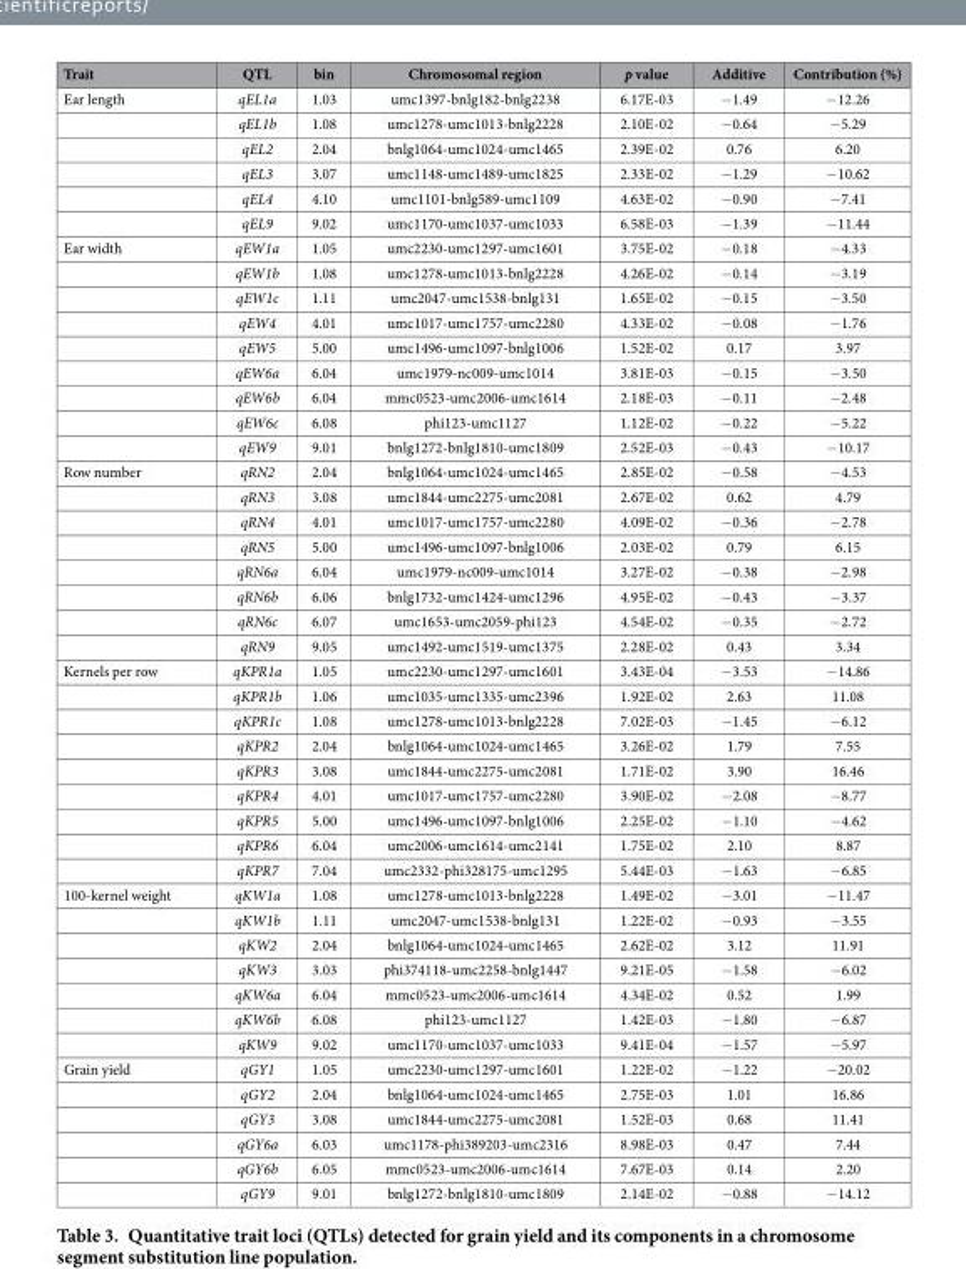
<table><thead><tr><td>Trait</td><td>QTL</td><td>bin</td><td>Chromosomal region</td><td>p value</td><td>Additive</td><td>Contribution (%)</td></tr></thead><tbody><tr><td rowspan="6">Ear length</td><td>qEL1a</td><td>1.03</td><td>umc1397-bnlg182-bnlg2238</td><td>6.17E-03</td><td>− 1.49</td><td>− 12.26</td></tr><tr><td>qEL1b</td><td>1.08</td><td>umc1278-umc1013-bnlg2228</td><td>2.10E-02</td><td>− 0.64</td><td>− 5.29</td></tr><tr><td>qEL2</td><td>2.04</td><td>bnlg1064-umc1024-umc1465</td><td>2.39E-02</td><td>0.76</td><td>6.20</td></tr><tr><td>qEL3</td><td>3.07</td><td>umc1148-umc1489-umc1825</td><td>2.33E-02</td><td>− 1.29</td><td>− 10.62</td></tr><tr><td>qEL4</td><td>4.10</td><td>umc1101-bnlg589-umc1109</td><td>4.63E-02</td><td>− 0.90</td><td>− 7.41</td></tr><tr><td>qEL9</td><td>9.02</td><td>umc1170-umc1037-umc1033</td><td>6.58E-03</td><td>− 1.39</td><td>− 11.44</td></tr><tr><td rowspan="9">Ear width</td><td>qEW1a</td><td>1.05</td><td>umc2230-umc1297-umc1601</td><td>3.75E-02</td><td>− 0.18</td><td>− 4.33</td></tr><tr><td>qEW1b</td><td>1.08</td><td>umc1278-umc1013-bnlg2228</td><td>4.26E-02</td><td>− 0.14</td><td>− 3.19</td></tr><tr><td>qEW1c</td><td>1.11</td><td>umc2047-umc1538-bnlg131</td><td>1.65E-02</td><td>− 0.15</td><td>− 3.50</td></tr><tr><td>qEW4</td><td>4.01</td><td>umc1017-umc1757-umc2280</td><td>4.33E-02</td><td>− 0.08</td><td>− 1.76</td></tr><tr><td>qEW5</td><td>5.00</td><td>umc1496-umc1097-bnlg1006</td><td>1.52E-02</td><td>0.17</td><td>3.97</td></tr><tr><td>qEW6a</td><td>6.04</td><td>umc1979-nc009-umc1014</td><td>3.81E-03</td><td>− 0.15</td><td>− 3.50</td></tr><tr><td>qEW6b</td><td>6.04</td><td>mmc0523-umc2006-umc1614</td><td>2.18E-03</td><td>− 0.11</td><td>− 2.48</td></tr><tr><td>qEW6c</td><td>6.08</td><td>phi123-umc1127</td><td>1.12E-02</td><td>− 0.22</td><td>− 5.22</td></tr><tr><td>qEW9</td><td>9.01</td><td>bnlg1272-bnlg1810-umc1809</td><td>2.52E-03</td><td>− 0.43</td><td>− 10.17</td></tr><tr><td rowspan="8">Row number</td><td>qRN2</td><td>2.04</td><td>bnlg1064-umc1024-umc1465</td><td>2.85E-02</td><td>− 0.58</td><td>− 4.53</td></tr><tr><td>qRN3</td><td>3.08</td><td>umc1844-umc2275-umc2081</td><td>2.67E-02</td><td>0.62</td><td>4.79</td></tr><tr><td>qRN4</td><td>4.01</td><td>umc1017-umc1757-umc2280</td><td>4.09E-02</td><td>− 0.36</td><td>− 2.78</td></tr><tr><td>qRN5</td><td>5.00</td><td>umc1496-umc1097-bnlg1006</td><td>2.03E-02</td><td>0.79</td><td>6.15</td></tr><tr><td>qRN6a</td><td>6.04</td><td>umc1979-nc009-umc1014</td><td>3.27E-02</td><td>− 0.38</td><td>− 2.98</td></tr><tr><td>qRN6b</td><td>6.06</td><td>bnlg1732-umc1424-umc1296</td><td>4.95E-02</td><td>− 0.43</td><td>− 3.37</td></tr><tr><td>qRN6c</td><td>6.07</td><td>umc1653-umc2059-phi123</td><td>4.54E-02</td><td>− 0.35</td><td>− 2.72</td></tr><tr><td>qRN9</td><td>9.05</td><td>umc1492-umc1519-umc1375</td><td>2.28E-02</td><td>0.43</td><td>3.34</td></tr><tr><td rowspan="9">Kernels per row</td><td>qKPR1a</td><td>1.05</td><td>umc2230-umc1297-umc1601</td><td>3.43E-04</td><td>− 3.53</td><td>− 14.86</td></tr><tr><td>qKPR1b</td><td>1.06</td><td>umc1035-umc1335-umc2396</td><td>1.92E-02</td><td>2.63</td><td>11.08</td></tr><tr><td>qKPR1c</td><td>1.08</td><td>umc1278-umc1013-bnlg2228</td><td>7.02E-03</td><td>− 1.45</td><td>− 6.12</td></tr><tr><td>qKPR2</td><td>2.04</td><td>bnlg1064-umc1024-umc1465</td><td>3.26E-02</td><td>1.79</td><td>7.55</td></tr><tr><td>qKPR3</td><td>3.08</td><td>umc1844-umc2275-umc2081</td><td>1.71E-02</td><td>3.90</td><td>16.46</td></tr><tr><td>qKPR4</td><td>4.01</td><td>umc1017-umc1757-umc2280</td><td>3.90E-02</td><td>− 2.08</td><td>− 8.77</td></tr><tr><td>qKPR5</td><td>5.00</td><td>umc1496-umc1097-bnlg1006</td><td>2.25E-02</td><td>− 1.10</td><td>− 4.62</td></tr><tr><td>qKPR6</td><td>6.04</td><td>umc2006-umc1614-umc2141</td><td>1.75E-02</td><td>2.10</td><td>8.87</td></tr><tr><td>qKPR7</td><td>7.04</td><td>umc2332-phi328175-umc1295</td><td>5.44E-03</td><td>− 1.63</td><td>− 6.85</td></tr><tr><td rowspan="7">100-kernel weight</td><td>qKW1a</td><td>1.08</td><td>umc1278-umc1013-bnlg2228</td><td>1.49E-02</td><td>− 3.01</td><td>− 11.47</td></tr><tr><td>qKW1b</td><td>1.11</td><td>umc2047-umc1538-bnlg131</td><td>1.22E-02</td><td>− 0.93</td><td>− 3.55</td></tr><tr><td>qKW2</td><td>2.04</td><td>bnlg1064-umc1024-umc1465</td><td>2.62E-02</td><td>3.12</td><td>11.91</td></tr><tr><td>qKW3</td><td>3.03</td><td>phi374118-umc2258-bnlg1447</td><td>9.21E-05</td><td>− 1.58</td><td>− 6.02</td></tr><tr><td>qKW6a</td><td>6.04</td><td>mmc0523-umc2006-umc1614</td><td>4.34E-02</td><td>0.52</td><td>1.99</td></tr><tr><td>qKW6b</td><td>6.08</td><td>phi123-umc1127</td><td>1.42E-03</td><td>− 1.80</td><td>− 6.87</td></tr><tr><td>qKW9</td><td>9.02</td><td>umc1170-umc1037-umc1033</td><td>9.41E-04</td><td>− 1.57</td><td>− 5.97</td></tr><tr><td rowspan="6">Grain yield</td><td>qGY1</td><td>1.05</td><td>umc2230-umc1297-umc1601</td><td>1.22E-02</td><td>− 1.22</td><td>− 20.02</td></tr><tr><td>qGY2</td><td>2.04</td><td>bnlg1064-umc1024-umc1465</td><td>2.75E-03</td><td>1.01</td><td>16.86</td></tr><tr><td>qGY3</td><td>3.08</td><td>umc1844-umc2275-umc2081</td><td>1.52E-03</td><td>0.68</td><td>11.41</td></tr><tr><td>qGY6a</td><td>6.03</td><td>umc1178-phi389203-umc2316</td><td>8.98E-03</td><td>0.47</td><td>7.44</td></tr><tr><td>qGY6b</td><td>6.05</td><td>mmc0523-umc2006-umc1614</td><td>7.67E-03</td><td>0.14</td><td>2.20</td></tr><tr><td>qGY9</td><td>9.01</td><td>bnlg1272-bnlg1810-umc1809</td><td>2.14E-02</td><td>− 0.88</td><td>− 14.12</td></tr></tbody></table>